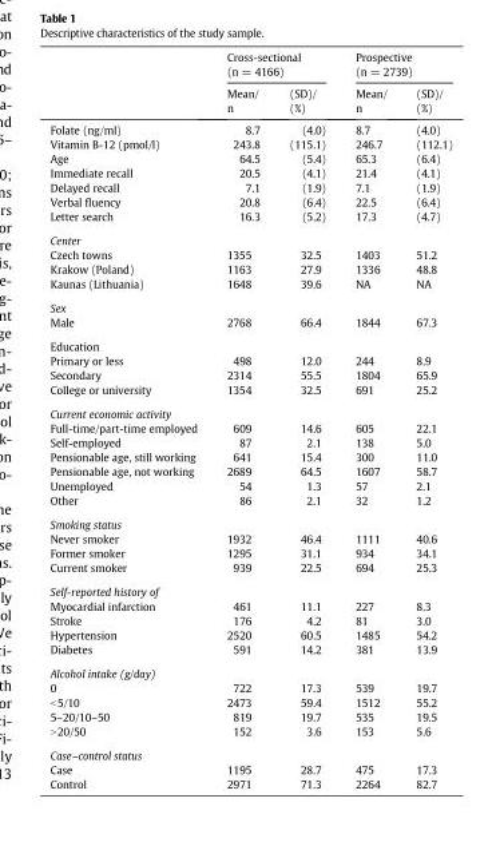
<table><thead><tr><td rowspan="2"></td><td colspan="2">Cross-sectional (n = 4166)</td><td colspan="2">Prospective (n = 2739)</td></tr><tr><td>Mean/ n</td><td>(SD)/ (%)</td><td>Mean/ n</td><td>(SD)/ (%)</td></tr></thead><tbody><tr><td>Folate (ng/ml)</td><td>8.7</td><td>(4.0)</td><td>8.7</td><td>(4.0)</td></tr><tr><td>Vitamin B-12 (pmol/l)</td><td>243.8</td><td>(115.1)</td><td>246.7</td><td>(112.1)</td></tr><tr><td>Age</td><td>64.5</td><td>(5.4)</td><td>65.3</td><td>(6.4)</td></tr><tr><td>Immediate recall</td><td>20.5</td><td>(4.1)</td><td>21.4</td><td>(4.1)</td></tr><tr><td>Delayed recall</td><td>7.1</td><td>(1.9)</td><td>7.1</td><td>(1.9)</td></tr><tr><td>Verbal fluency</td><td>20.8</td><td>(6.4)</td><td>22.5</td><td>(6.4)</td></tr><tr><td>Letter search</td><td>16.3</td><td>(5.2)</td><td>17.3</td><td>(4.7)</td></tr><tr><td colspan="5">Center</td></tr><tr><td>Czech towns</td><td>1355</td><td>32.5</td><td>1403</td><td>51.2</td></tr><tr><td>Krakow (Poland)</td><td>1163</td><td>27.9</td><td>1336</td><td>48.8</td></tr><tr><td>Kaunas (Lithuania)</td><td>1648</td><td>39.6</td><td>NA</td><td>NA</td></tr><tr><td colspan="5">Sex</td></tr><tr><td>Male</td><td>2768</td><td>66.4</td><td>1844</td><td>67.3</td></tr><tr><td colspan="5">Education</td></tr><tr><td>Primary or less</td><td>498</td><td>12.0</td><td>244</td><td>8.9</td></tr><tr><td>Secondary</td><td>2314</td><td>55.5</td><td>1804</td><td>65.9</td></tr><tr><td>College or university</td><td>1354</td><td>32.5</td><td>691</td><td>25.2</td></tr><tr><td colspan="5">Current economic activity</td></tr><tr><td>Full-time/part-time employed</td><td>609</td><td>14.6</td><td>605</td><td>22.1</td></tr><tr><td>Self-employed</td><td>87</td><td>2.1</td><td>138</td><td>5.0</td></tr><tr><td>Pensionable age, still working</td><td>641</td><td>15.4</td><td>300</td><td>11.0</td></tr><tr><td>Pensionable age, not working</td><td>2689</td><td>64.5</td><td>1607</td><td>58.7</td></tr><tr><td>Unemployed</td><td>54</td><td>1.3</td><td>57</td><td>2.1</td></tr><tr><td>Other</td><td>86</td><td>2.1</td><td>32</td><td>1.2</td></tr><tr><td colspan="5">Smoking status</td></tr><tr><td>Never smoker</td><td>1932</td><td>46.4</td><td>1111</td><td>40.6</td></tr><tr><td>Former smoker</td><td>1295</td><td>31.1</td><td>934</td><td>34.1</td></tr><tr><td>Current smoker</td><td>939</td><td>22.5</td><td>694</td><td>25.3</td></tr><tr><td colspan="5">Self-reported history of</td></tr><tr><td>Myocardial infarction</td><td>461</td><td>11.1</td><td>227</td><td>8.3</td></tr><tr><td>Stroke</td><td>176</td><td>4.2</td><td>81</td><td>3.0</td></tr><tr><td>Hypertension</td><td>2520</td><td>60.5</td><td>1485</td><td>54.2</td></tr><tr><td>Diabetes</td><td>591</td><td>14.2</td><td>381</td><td>13.9</td></tr><tr><td colspan="5">Alcohol intake (g/day)</td></tr><tr><td>0</td><td>722</td><td>17.3</td><td>539</td><td>19.7</td></tr><tr><td>&lt;5/10</td><td>2473</td><td>59.4</td><td>1512</td><td>55.2</td></tr><tr><td>5–20/10–50</td><td>819</td><td>19.7</td><td>535</td><td>19.5</td></tr><tr><td>&gt;20/50</td><td>152</td><td>3.6</td><td>153</td><td>5.6</td></tr><tr><td colspan="5">Case–control status</td></tr><tr><td>Case</td><td>1195</td><td>28.7</td><td>475</td><td>17.3</td></tr><tr><td>Control</td><td>2971</td><td>71.3</td><td>2264</td><td>82.7</td></tr></tbody></table>